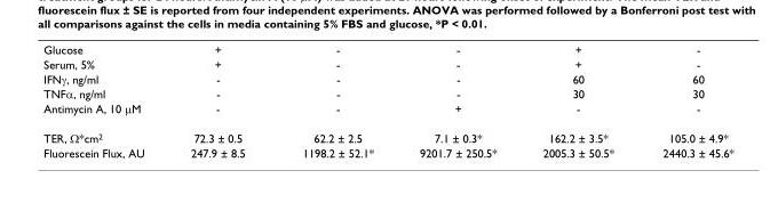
<table><tbody><tr><td>Glucose</td><td>+</td><td>-</td><td>-</td><td>+</td><td>-</td></tr><tr><td>Serum, 5%</td><td>+</td><td>-</td><td>-</td><td>+</td><td>-</td></tr><tr><td>IFNγ, ng/ml</td><td>-</td><td>-</td><td>-</td><td>60</td><td>60</td></tr><tr><td>TNFα, ng/ml</td><td>-</td><td>-</td><td>-</td><td>30</td><td>30</td></tr><tr><td>Antimycin A, 10 µM</td><td>-</td><td>-</td><td>+</td><td>-</td><td>-</td></tr><tr><td>TER, Ω*cm<sup>2</sup></td><td>72.3 ± 0.5</td><td>62.2 ± 2.5</td><td>7.1 ± 0.3*</td><td>162.2 ± 3.5*</td><td>105.0 ± 4.9*</td></tr><tr><td>Fluorescein Flux, AU</td><td>247.9 ± 8.5</td><td>1198.2 ± 52.1*</td><td>9201.7 ± 250.5*</td><td>2005.3 ± 50.5*</td><td>2440.3 ± 45.6*</td></tr></tbody></table>